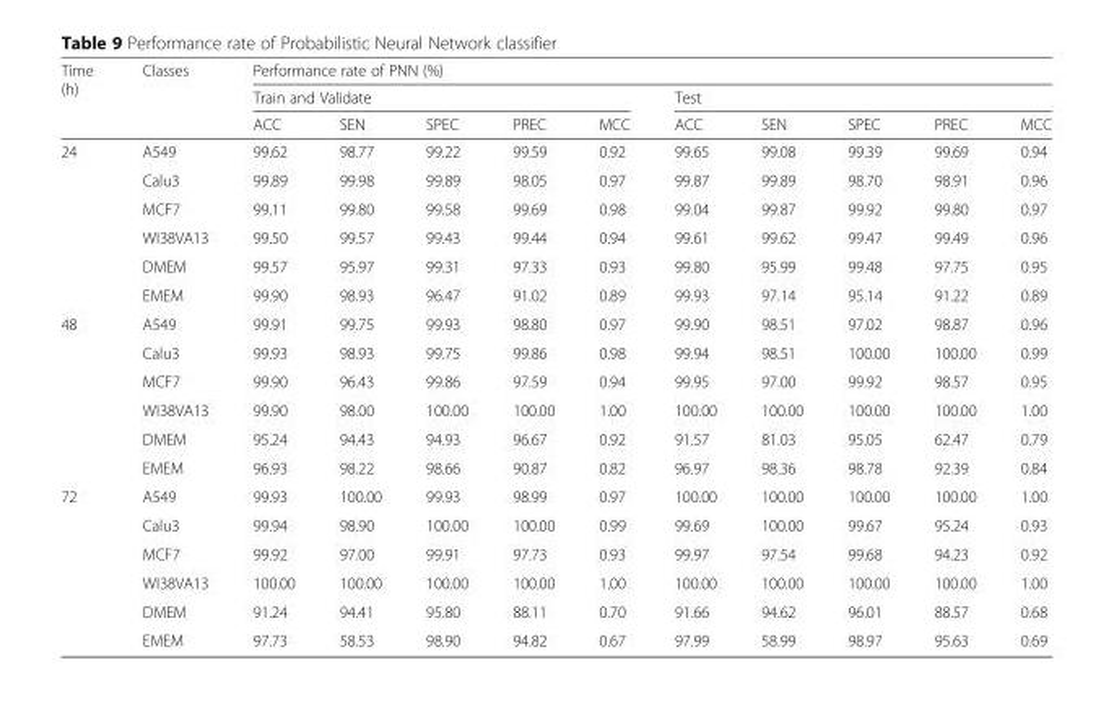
<table><thead><tr><td rowspan="3">Time (h)</td><td rowspan="3">Classes</td><td colspan="10">Performance rate of PNN (%)</td></tr><tr><td colspan="5">Train and Validate</td><td colspan="5">Test</td></tr><tr><td>ACC</td><td>SEN</td><td>SPEC</td><td>PREC</td><td>MCC</td><td>ACC</td><td>SEN</td><td>SPEC</td><td>PREC</td><td>MCC</td></tr></thead><tbody><tr><td rowspan="6">24</td><td>A549</td><td>99.62</td><td>98.77</td><td>99.22</td><td>99.59</td><td>0.92</td><td>99.65</td><td>99.08</td><td>99.39</td><td>99.69</td><td>0.94</td></tr><tr><td>Calu3</td><td>99.89</td><td>99.98</td><td>99.89</td><td>98.05</td><td>0.97</td><td>99.87</td><td>99.89</td><td>98.70</td><td>98.91</td><td>0.96</td></tr><tr><td>MCF7</td><td>99.11</td><td>99.80</td><td>99.58</td><td>99.69</td><td>0.98</td><td>99.04</td><td>99.87</td><td>99.92</td><td>99.80</td><td>0.97</td></tr><tr><td>WI38VA13</td><td>99.50</td><td>99.57</td><td>99.43</td><td>99.44</td><td>0.94</td><td>99.61</td><td>99.62</td><td>99.47</td><td>99.49</td><td>0.96</td></tr><tr><td>DMEM</td><td>99.57</td><td>95.97</td><td>99.31</td><td>97.33</td><td>0.93</td><td>99.80</td><td>95.99</td><td>99.48</td><td>97.75</td><td>0.95</td></tr><tr><td>EMEM</td><td>99.90</td><td>98.93</td><td>96.47</td><td>91.02</td><td>0.89</td><td>99.93</td><td>97.14</td><td>95.14</td><td>91.22</td><td>0.89</td></tr><tr><td rowspan="6">48</td><td>A549</td><td>99.91</td><td>99.75</td><td>99.93</td><td>98.80</td><td>0.97</td><td>99.90</td><td>98.51</td><td>97.02</td><td>98.87</td><td>0.96</td></tr><tr><td>Calu3</td><td>99.93</td><td>98.93</td><td>99.75</td><td>99.86</td><td>0.98</td><td>99.94</td><td>98.51</td><td>100.00</td><td>100.00</td><td>0.99</td></tr><tr><td>MCF7</td><td>99.90</td><td>96.43</td><td>99.86</td><td>97.59</td><td>0.94</td><td>99.95</td><td>97.00</td><td>99.92</td><td>98.57</td><td>0.95</td></tr><tr><td>WI38VA13</td><td>99.90</td><td>98.00</td><td>100.00</td><td>100.00</td><td>1.00</td><td>100.00</td><td>100.00</td><td>100.00</td><td>100.00</td><td>1.00</td></tr><tr><td>DMEM</td><td>95.24</td><td>94.43</td><td>94.93</td><td>96.67</td><td>0.92</td><td>91.57</td><td>81.03</td><td>95.05</td><td>62.47</td><td>0.79</td></tr><tr><td>EMEM</td><td>96.93</td><td>98.22</td><td>98.66</td><td>90.87</td><td>0.82</td><td>96.97</td><td>98.36</td><td>98.78</td><td>92.39</td><td>0.84</td></tr><tr><td rowspan="6">72</td><td>A549</td><td>99.93</td><td>100.00</td><td>99.93</td><td>98.99</td><td>0.97</td><td>100.00</td><td>100.00</td><td>100.00</td><td>100.00</td><td>1.00</td></tr><tr><td>Calu3</td><td>99.94</td><td>98.90</td><td>100.00</td><td>100.00</td><td>0.99</td><td>99.69</td><td>100.00</td><td>99.67</td><td>95.24</td><td>0.93</td></tr><tr><td>MCF7</td><td>99.92</td><td>97.00</td><td>99.91</td><td>97.73</td><td>0.93</td><td>99.97</td><td>97.54</td><td>99.68</td><td>94.23</td><td>0.92</td></tr><tr><td>WI38VA13</td><td>100.00</td><td>100.00</td><td>100.00</td><td>100.00</td><td>1.00</td><td>100.00</td><td>100.00</td><td>100.00</td><td>100.00</td><td>1.00</td></tr><tr><td>DMEM</td><td>91.24</td><td>94.41</td><td>95.80</td><td>88.11</td><td>0.70</td><td>91.66</td><td>94.62</td><td>96.01</td><td>88.57</td><td>0.68</td></tr><tr><td>EMEM</td><td>97.73</td><td>58.53</td><td>98.90</td><td>94.82</td><td>0.67</td><td>97.99</td><td>58.99</td><td>98.97</td><td>95.63</td><td>0.69</td></tr></tbody></table>